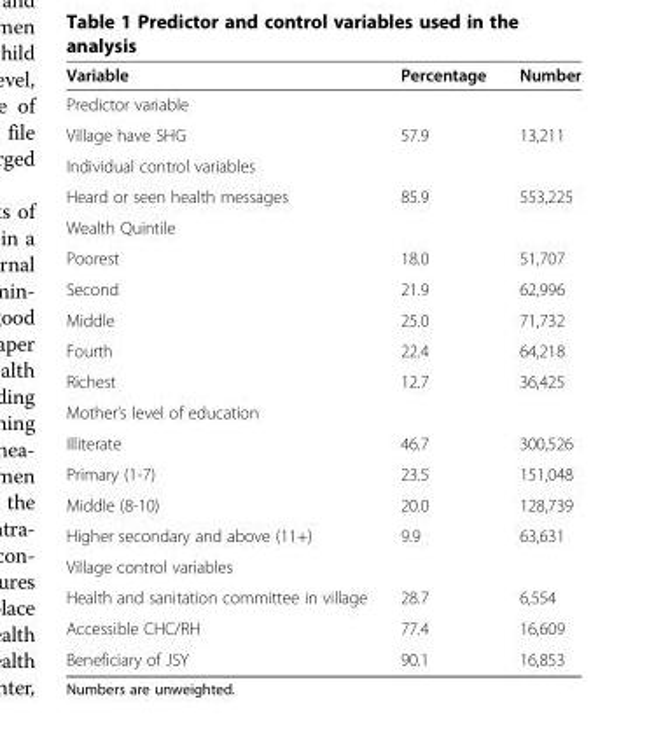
<table><thead><tr><td>Variable</td><td>Percentage</td><td>Number</td></tr></thead><tbody><tr><td colspan="3">Predictor variable</td></tr><tr><td>Village have SHG</td><td>57.9</td><td>13,211</td></tr><tr><td colspan="3">Individual control variables</td></tr><tr><td>Heard or seen health messages</td><td>85.9</td><td>553,225</td></tr><tr><td colspan="3">Wealth Quintile</td></tr><tr><td>Poorest</td><td>18.0</td><td>51,707</td></tr><tr><td>Second</td><td>21.9</td><td>62,996</td></tr><tr><td>Middle</td><td>25.0</td><td>71,732</td></tr><tr><td>Fourth</td><td>22.4</td><td>64,218</td></tr><tr><td>Richest</td><td>12.7</td><td>36,425</td></tr><tr><td colspan="3">Mother’s level of education</td></tr><tr><td>Illiterate</td><td>46.7</td><td>300,526</td></tr><tr><td>Primary (1-7)</td><td>23.5</td><td>151,048</td></tr><tr><td>Middle (8-10)</td><td>20.0</td><td>128,739</td></tr><tr><td>Higher secondary and above (11+)</td><td>9.9</td><td>63,631</td></tr><tr><td colspan="3">Village control variables</td></tr><tr><td>Health and sanitation committee in village</td><td>28.7</td><td>6,554</td></tr><tr><td>Accessible CHC/RH</td><td>77.4</td><td>16,609</td></tr><tr><td>Beneficiary of JSY</td><td>90.1</td><td>16,853</td></tr></tbody></table>